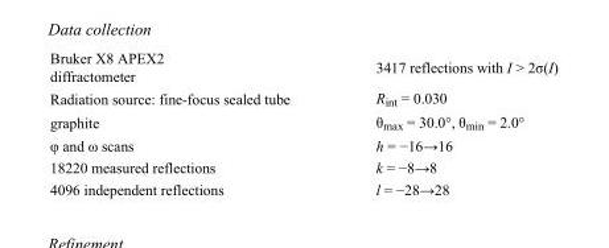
<table><tbody><tr><td>Bruker X8 APEX2 diffractometer</td><td>3417 reflections with I &gt; 2σ(I)</td></tr><tr><td>Radiation source: fine-focus sealed tube</td><td>R<sub>int</sub> = 0.030</td></tr><tr><td>graphite</td><td>θ<sub>max</sub> = 30.0°, θ<sub>min</sub> = 2.0°</td></tr><tr><td>φ and ω scans</td><td>h = −16→16</td></tr><tr><td>18220 measured reflections</td><td>k = −8→8</td></tr><tr><td>4096 independent reflections</td><td>l = −28→28</td></tr></tbody></table>